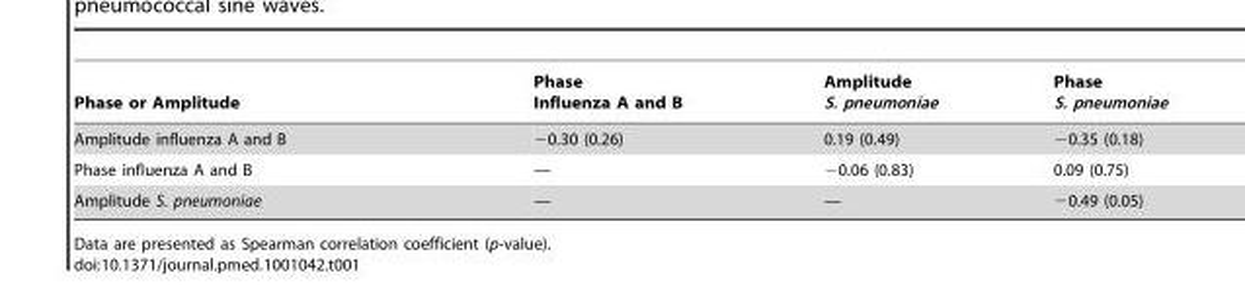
<table><thead><tr><td>Phase or Amplitude</td><td>Phase Influenza A and B</td><td>Amplitude S. pneumoniae</td><td>Phase S. pneumoniae</td></tr></thead><tbody><tr><td>Amplitude influenza A and B</td><td>−0.30 (0.26)</td><td>0.19 (0.49)</td><td>−0.35 (0.18)</td></tr><tr><td>Phase influenza A and B</td><td>—</td><td>−0.06 (0.83)</td><td>0.09 (0.75)</td></tr><tr><td>Amplitude S. pneumoniae</td><td>—</td><td>—</td><td>−0.49 (0.05)</td></tr></tbody></table>